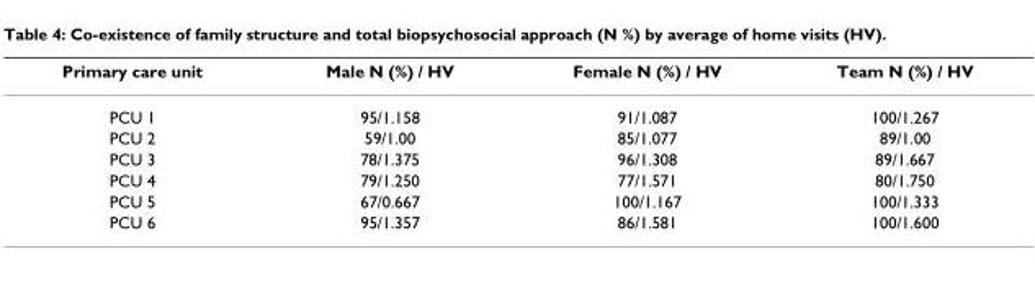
<table><thead><tr><td>Primary care unit</td><td>Male N (%) / HV</td><td>Female N (%) / HV</td><td>Team N (%) / HV</td></tr></thead><tbody><tr><td>PCU 1</td><td>95/1.158</td><td>91/1.087</td><td>100/1.267</td></tr><tr><td>PCU 2</td><td>59/1.00</td><td>85/1.077</td><td>89/1.00</td></tr><tr><td>PCU 3</td><td>78/1.375</td><td>96/1.308</td><td>89/1.667</td></tr><tr><td>PCU 4</td><td>79/1.250</td><td>77/1.571</td><td>80/1.750</td></tr><tr><td>PCU 5</td><td>67/0.667</td><td>100/1.167</td><td>100/1.333</td></tr><tr><td>PCU 6</td><td>95/1.357</td><td>86/1.581</td><td>100/1.600</td></tr></tbody></table>